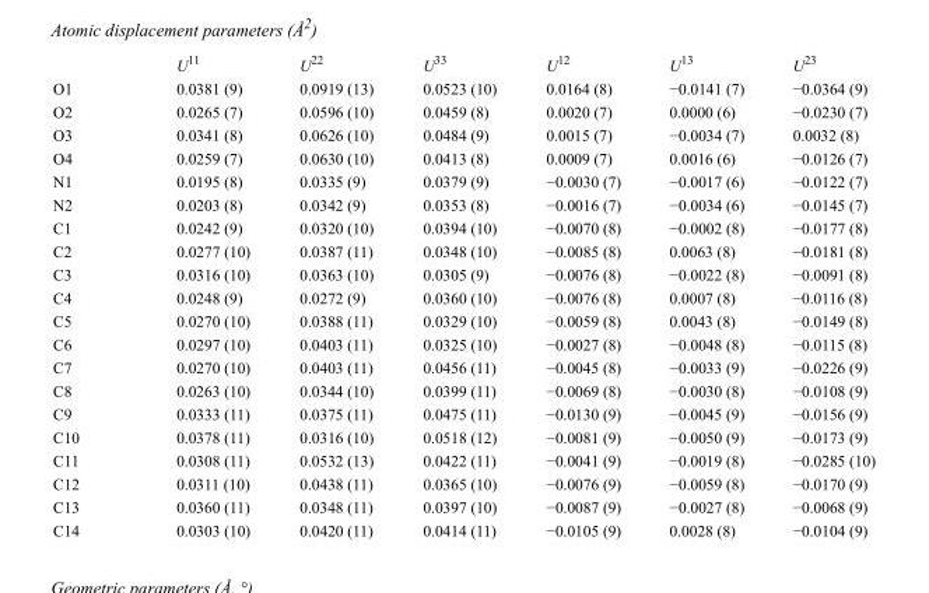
<table><thead><tr><td></td><td>U<sup>11</sup></td><td>U<sup>22</sup></td><td>U<sup>33</sup></td><td>U<sup>12</sup></td><td>U<sup>13</sup></td><td>U<sup>23</sup></td></tr></thead><tbody><tr><td>O1</td><td>0.0381 (9)</td><td>0.0919 (13)</td><td>0.0523 (10)</td><td>0.0164 (8)</td><td>−0.0141 (7)</td><td>−0.0364 (9)</td></tr><tr><td>O2</td><td>0.0265 (7)</td><td>0.0596 (10)</td><td>0.0459 (8)</td><td>0.0020 (7)</td><td>0.0000 (6)</td><td>−0.0230 (7)</td></tr><tr><td>O3</td><td>0.0341 (8)</td><td>0.0626 (10)</td><td>0.0484 (9)</td><td>0.0015 (7)</td><td>−0.0034 (7)</td><td>0.0032 (8)</td></tr><tr><td>O4</td><td>0.0259 (7)</td><td>0.0630 (10)</td><td>0.0413 (8)</td><td>0.0009 (7)</td><td>0.0016 (6)</td><td>−0.0126 (7)</td></tr><tr><td>N1</td><td>0.0195 (8)</td><td>0.0335 (9)</td><td>0.0379 (9)</td><td>−0.0030 (7)</td><td>−0.0017 (6)</td><td>−0.0122 (7)</td></tr><tr><td>N2</td><td>0.0203 (8)</td><td>0.0342 (9)</td><td>0.0353 (8)</td><td>−0.0016 (7)</td><td>−0.0034 (6)</td><td>−0.0145 (7)</td></tr><tr><td>C1</td><td>0.0242 (9)</td><td>0.0320 (10)</td><td>0.0394 (10)</td><td>−0.0070 (8)</td><td>−0.0002 (8)</td><td>−0.0177 (8)</td></tr><tr><td>C2</td><td>0.0277 (10)</td><td>0.0387 (11)</td><td>0.0348 (10)</td><td>−0.0085 (8)</td><td>0.0063 (8)</td><td>−0.0181 (8)</td></tr><tr><td>C3</td><td>0.0316 (10)</td><td>0.0363 (10)</td><td>0.0305 (9)</td><td>−0.0076 (8)</td><td>−0.0022 (8)</td><td>−0.0091 (8)</td></tr><tr><td>C4</td><td>0.0248 (9)</td><td>0.0272 (9)</td><td>0.0360 (10)</td><td>−0.0076 (8)</td><td>0.0007 (8)</td><td>−0.0116 (8)</td></tr><tr><td>C5</td><td>0.0270 (10)</td><td>0.0388 (11)</td><td>0.0329 (10)</td><td>−0.0059 (8)</td><td>0.0043 (8)</td><td>−0.0149 (8)</td></tr><tr><td>C6</td><td>0.0297 (10)</td><td>0.0403 (11)</td><td>0.0325 (10)</td><td>−0.0027 (8)</td><td>−0.0048 (8)</td><td>−0.0115 (8)</td></tr><tr><td>C7</td><td>0.0270 (10)</td><td>0.0403 (11)</td><td>0.0456 (11)</td><td>−0.0045 (8)</td><td>−0.0033 (9)</td><td>−0.0226 (9)</td></tr><tr><td>C8</td><td>0.0263 (10)</td><td>0.0344 (10)</td><td>0.0399 (11)</td><td>−0.0069 (8)</td><td>−0.0030 (8)</td><td>−0.0108 (9)</td></tr><tr><td>C9</td><td>0.0333 (11)</td><td>0.0375 (11)</td><td>0.0475 (11)</td><td>−0.0130 (9)</td><td>−0.0045 (9)</td><td>−0.0156 (9)</td></tr><tr><td>C10</td><td>0.0378 (11)</td><td>0.0316 (10)</td><td>0.0518 (12)</td><td>−0.0081 (9)</td><td>−0.0050 (9)</td><td>−0.0173 (9)</td></tr><tr><td>C11</td><td>0.0308 (11)</td><td>0.0532 (13)</td><td>0.0422 (11)</td><td>−0.0041 (9)</td><td>−0.0019 (8)</td><td>−0.0285 (10)</td></tr><tr><td>C12</td><td>0.0311 (10)</td><td>0.0438 (11)</td><td>0.0365 (10)</td><td>−0.0076 (9)</td><td>−0.0059 (8)</td><td>−0.0170 (9)</td></tr><tr><td>C13</td><td>0.0360 (11)</td><td>0.0348 (11)</td><td>0.0397 (10)</td><td>−0.0087 (9)</td><td>−0.0027 (8)</td><td>−0.0068 (9)</td></tr><tr><td>C14</td><td>0.0303 (10)</td><td>0.0420 (11)</td><td>0.0414 (11)</td><td>−0.0105 (9)</td><td>0.0028 (8)</td><td>−0.0104 (9)</td></tr></tbody></table>